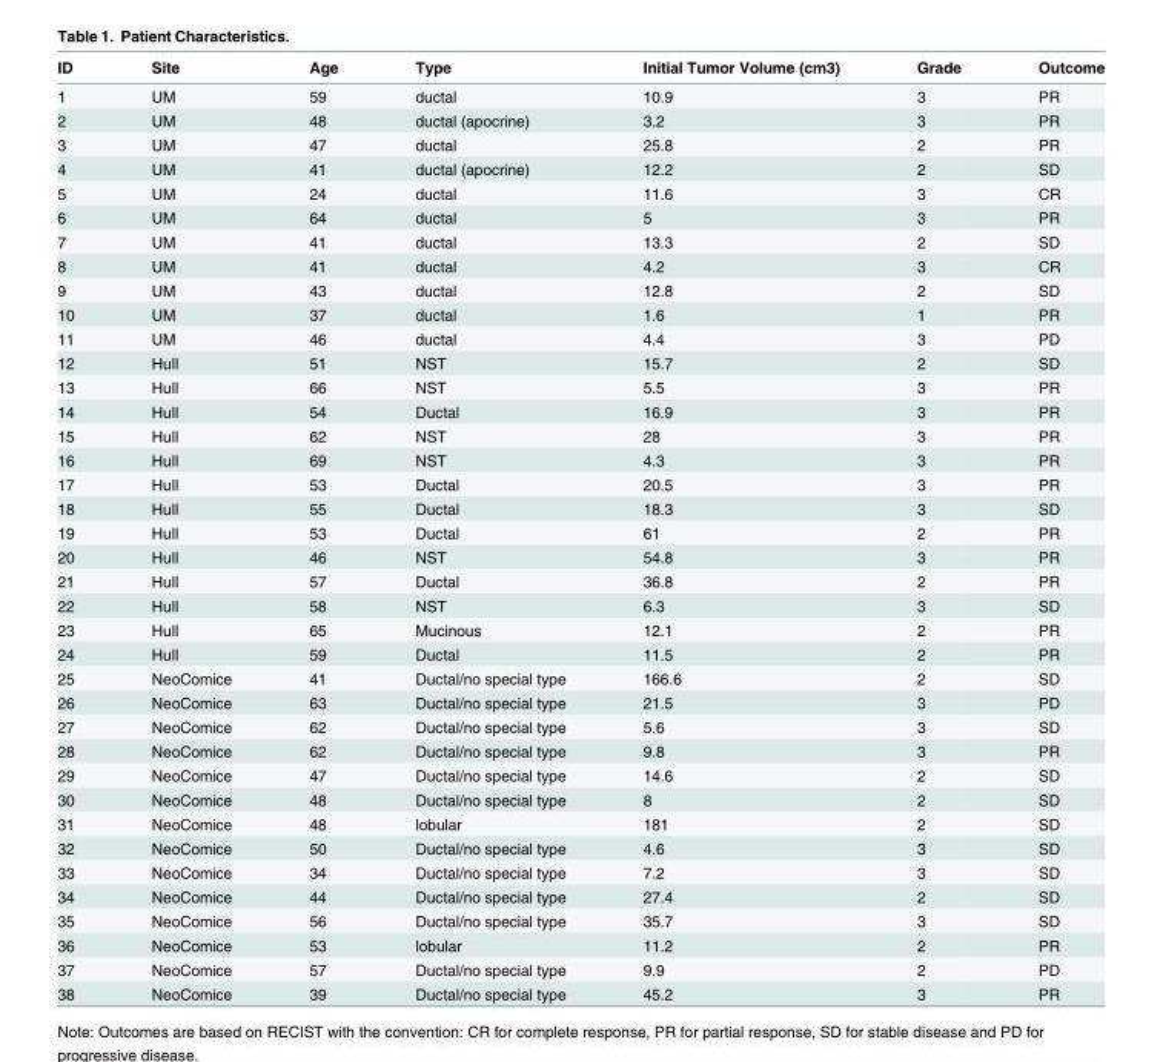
<table><thead><tr><td>ID</td><td>Site</td><td>Age</td><td>Type</td><td>Initial Tumor Volume (cm3)</td><td>Grade</td><td>Outcome</td></tr></thead><tbody><tr><td>1</td><td>UM</td><td>59</td><td>ductal</td><td>10.9</td><td>3</td><td>PR</td></tr><tr><td>2</td><td>UM</td><td>48</td><td>ductal (apocrine)</td><td>3.2</td><td>3</td><td>PR</td></tr><tr><td>3</td><td>UM</td><td>47</td><td>ductal</td><td>25.8</td><td>2</td><td>PR</td></tr><tr><td>4</td><td>UM</td><td>41</td><td>ductal (apocrine)</td><td>12.2</td><td>2</td><td>SD</td></tr><tr><td>5</td><td>UM</td><td>24</td><td>ductal</td><td>11.6</td><td>3</td><td>CR</td></tr><tr><td>6</td><td>UM</td><td>64</td><td>ductal</td><td>5</td><td>3</td><td>PR</td></tr><tr><td>7</td><td>UM</td><td>41</td><td>ductal</td><td>13.3</td><td>2</td><td>SD</td></tr><tr><td>8</td><td>UM</td><td>41</td><td>ductal</td><td>4.2</td><td>3</td><td>CR</td></tr><tr><td>9</td><td>UM</td><td>43</td><td>ductal</td><td>12.8</td><td>2</td><td>SD</td></tr><tr><td>10</td><td>UM</td><td>37</td><td>ductal</td><td>1.6</td><td>1</td><td>PR</td></tr><tr><td>11</td><td>UM</td><td>46</td><td>ductal</td><td>4.4</td><td>3</td><td>PD</td></tr><tr><td>12</td><td>Hull</td><td>51</td><td>NST</td><td>15.7</td><td>2</td><td>SD</td></tr><tr><td>13</td><td>Hull</td><td>66</td><td>NST</td><td>5.5</td><td>3</td><td>PR</td></tr><tr><td>14</td><td>Hull</td><td>54</td><td>Ductal</td><td>16.9</td><td>3</td><td>PR</td></tr><tr><td>15</td><td>Hull</td><td>62</td><td>NST</td><td>28</td><td>3</td><td>PR</td></tr><tr><td>16</td><td>Hull</td><td>69</td><td>NST</td><td>4.3</td><td>3</td><td>PR</td></tr><tr><td>17</td><td>Hull</td><td>53</td><td>Ductal</td><td>20.5</td><td>3</td><td>PR</td></tr><tr><td>18</td><td>Hull</td><td>55</td><td>Ductal</td><td>18.3</td><td>3</td><td>SD</td></tr><tr><td>19</td><td>Hull</td><td>53</td><td>Ductal</td><td>61</td><td>2</td><td>PR</td></tr><tr><td>20</td><td>Hull</td><td>46</td><td>NST</td><td>54.8</td><td>3</td><td>PR</td></tr><tr><td>21</td><td>Hull</td><td>57</td><td>Ductal</td><td>36.8</td><td>2</td><td>PR</td></tr><tr><td>22</td><td>Hull</td><td>58</td><td>NST</td><td>6.3</td><td>3</td><td>SD</td></tr><tr><td>23</td><td>Hull</td><td>65</td><td>Mucinous</td><td>12.1</td><td>2</td><td>PR</td></tr><tr><td>24</td><td>Hull</td><td>59</td><td>Ductal</td><td>11.5</td><td>2</td><td>PR</td></tr><tr><td>25</td><td>NeoComice</td><td>41</td><td>Ductal/no special type</td><td>166.6</td><td>2</td><td>SD</td></tr><tr><td>26</td><td>NeoComice</td><td>63</td><td>Ductal/no special type</td><td>21.5</td><td>3</td><td>PD</td></tr><tr><td>27</td><td>NeoComice</td><td>62</td><td>Ductal/no special type</td><td>5.6</td><td>3</td><td>SD</td></tr><tr><td>28</td><td>NeoComice</td><td>62</td><td>Ductal/no special type</td><td>9.8</td><td>3</td><td>PR</td></tr><tr><td>29</td><td>NeoComice</td><td>47</td><td>Ductal/no special type</td><td>14.6</td><td>2</td><td>SD</td></tr><tr><td>30</td><td>NeoComice</td><td>48</td><td>Ductal/no special type</td><td>8</td><td>2</td><td>SD</td></tr><tr><td>31</td><td>NeoComice</td><td>48</td><td>lobular</td><td>181</td><td>2</td><td>SD</td></tr><tr><td>32</td><td>NeoComice</td><td>50</td><td>Ductal/no special type</td><td>4.6</td><td>3</td><td>SD</td></tr><tr><td>33</td><td>NeoComice</td><td>34</td><td>Ductal/no special type</td><td>7.2</td><td>3</td><td>SD</td></tr><tr><td>34</td><td>NeoComice</td><td>44</td><td>Ductal/no special type</td><td>27.4</td><td>2</td><td>SD</td></tr><tr><td>35</td><td>NeoComice</td><td>56</td><td>Ductal/no special type</td><td>35.7</td><td>3</td><td>SD</td></tr><tr><td>36</td><td>NeoComice</td><td>53</td><td>lobular</td><td>11.2</td><td>2</td><td>PR</td></tr><tr><td>37</td><td>NeoComice</td><td>57</td><td>Ductal/no special type</td><td>9.9</td><td>2</td><td>PD</td></tr><tr><td>38</td><td>NeoComice</td><td>39</td><td>Ductal/no special type</td><td>45.2</td><td>3</td><td>PR</td></tr></tbody></table>